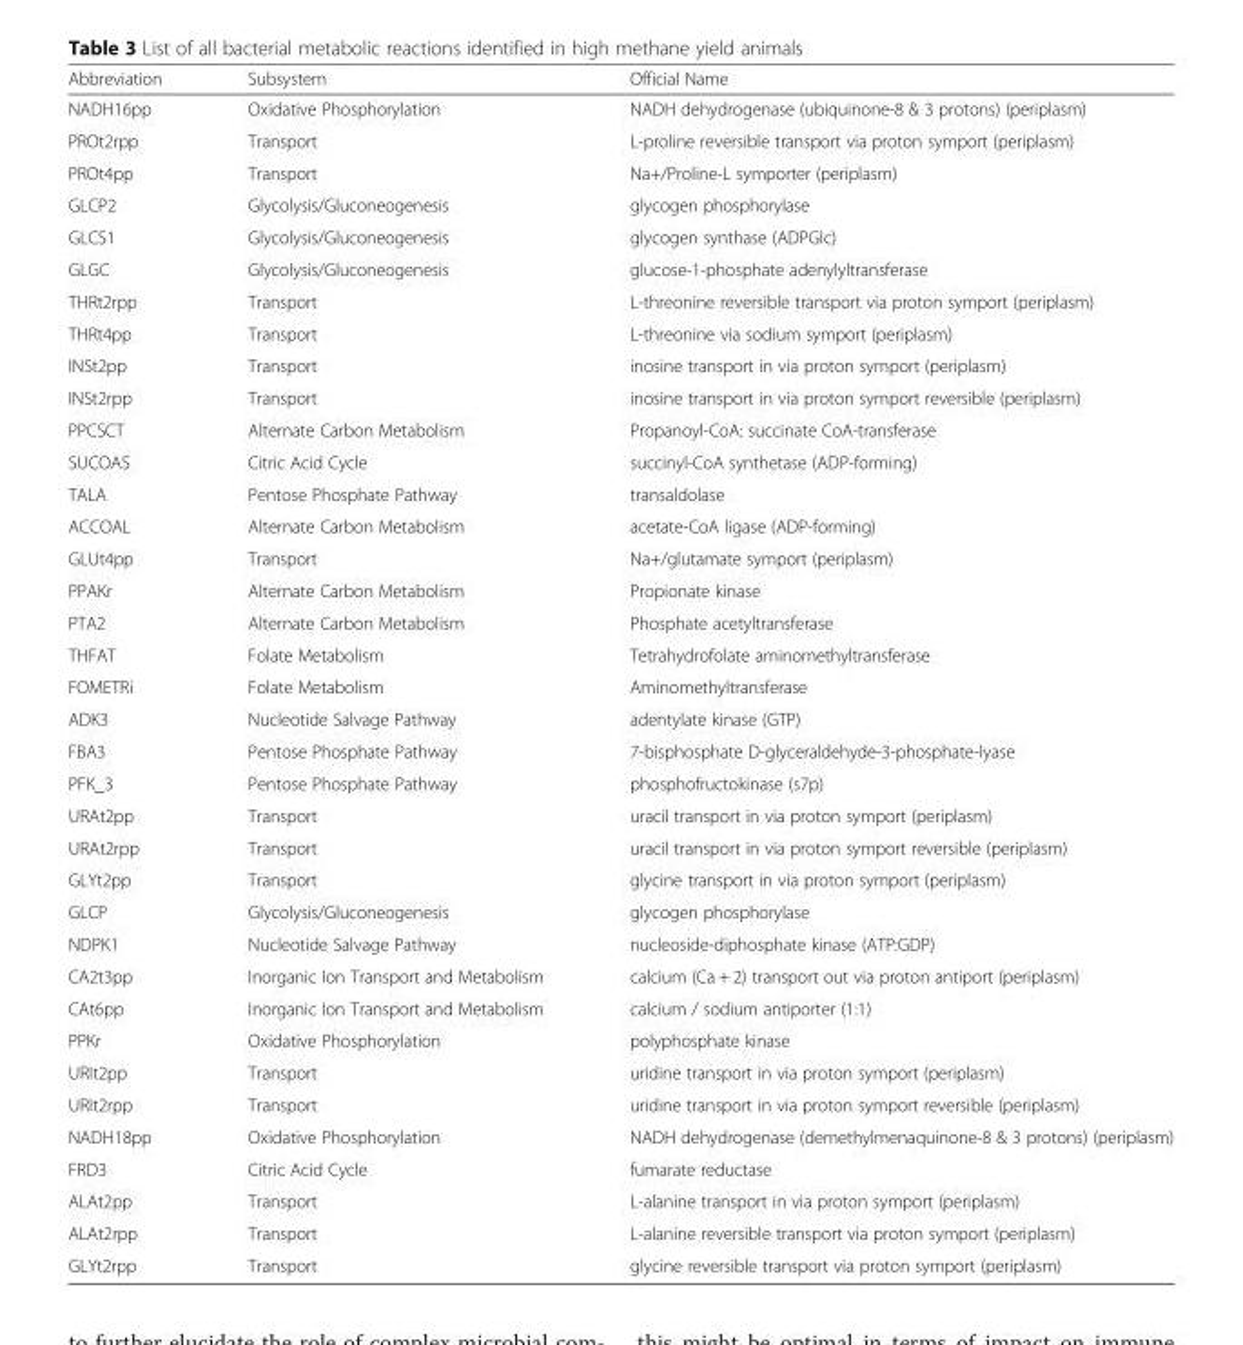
<table><thead><tr><td>Abbreviation</td><td>Subsystem</td><td>Official Name</td></tr></thead><tbody><tr><td>NADH16pp</td><td>Oxidative Phosphorylation</td><td>NADH dehydrogenase (ubiquinone-8 &amp; 3 protons) (periplasm)</td></tr><tr><td>PROt2rpp</td><td>Transport</td><td>L-proline reversible transport via proton symport (periplasm)</td></tr><tr><td>PROt4pp</td><td>Transport</td><td>Na+/Proline-L symporter (periplasm)</td></tr><tr><td>GLCP2</td><td>Glycolysis/Gluconeogenesis</td><td>glycogen phosphorylase</td></tr><tr><td>GLCS1</td><td>Glycolysis/Gluconeogenesis</td><td>glycogen synthase (ADPGlc)</td></tr><tr><td>GLGC</td><td>Glycolysis/Gluconeogenesis</td><td>glucose-1-phosphate adenylyltransferase</td></tr><tr><td>THRt2rpp</td><td>Transport</td><td>L-threonine reversible transport via proton symport (periplasm)</td></tr><tr><td>THRt4pp</td><td>Transport</td><td>L-threonine via sodium symport (periplasm)</td></tr><tr><td>INSt2pp</td><td>Transport</td><td>inosine transport in via proton symport (periplasm)</td></tr><tr><td>INSt2rpp</td><td>Transport</td><td>inosine transport in via proton symport reversible (periplasm)</td></tr><tr><td>PPCSCT</td><td>Alternate Carbon Metabolism</td><td>Propanoyl-CoA: succinate CoA-transferase</td></tr><tr><td>SUCOAS</td><td>Citric Acid Cycle</td><td>succinyl-CoA synthetase (ADP-forming)</td></tr><tr><td>TALA</td><td>Pentose Phosphate Pathway</td><td>transaldolase</td></tr><tr><td>ACCOAL</td><td>Alternate Carbon Metabolism</td><td>acetate-CoA ligase (ADP-forming)</td></tr><tr><td>GLUt4pp</td><td>Transport</td><td>Na+/glutamate symport (periplasm)</td></tr><tr><td>PPAKr</td><td>Alternate Carbon Metabolism</td><td>Propionate kinase</td></tr><tr><td>PTA2</td><td>Alternate Carbon Metabolism</td><td>Phosphate acetyltransferase</td></tr><tr><td>THFAT</td><td>Folate Metabolism</td><td>Tetrahydrofolate aminomethyltransferase</td></tr><tr><td>FOMETRi</td><td>Folate Metabolism</td><td>Aminomethyltransferase</td></tr><tr><td>ADK3</td><td>Nucleotide Salvage Pathway</td><td>adentylate kinase (GTP)</td></tr><tr><td>FBA3</td><td>Pentose Phosphate Pathway</td><td>7-bisphosphate D-glyceraldehyde-3-phosphate-lyase</td></tr><tr><td>PFK_3</td><td>Pentose Phosphate Pathway</td><td>phosphofructokinase (s7p)</td></tr><tr><td>URAt2pp</td><td>Transport</td><td>uracil transport in via proton symport (periplasm)</td></tr><tr><td>URAt2rpp</td><td>Transport</td><td>uracil transport in via proton symport reversible (periplasm)</td></tr><tr><td>GLYt2pp</td><td>Transport</td><td>glycine transport in via proton symport (periplasm)</td></tr><tr><td>GLCP</td><td>Glycolysis/Gluconeogenesis</td><td>glycogen phosphorylase</td></tr><tr><td>NDPK1</td><td>Nucleotide Salvage Pathway</td><td>nucleoside-diphosphate kinase (ATP:GDP)</td></tr><tr><td>CA2t3pp</td><td>Inorganic Ion Transport and Metabolism</td><td>calcium (Ca + 2) transport out via proton antiport (periplasm)</td></tr><tr><td>CAt6pp</td><td>Inorganic Ion Transport and Metabolism</td><td>calcium / sodium antiporter (1:1)</td></tr><tr><td>PPKr</td><td>Oxidative Phosphorylation</td><td>polyphosphate kinase</td></tr><tr><td>URIt2pp</td><td>Transport</td><td>uridine transport in via proton symport (periplasm)</td></tr><tr><td>URIt2rpp</td><td>Transport</td><td>uridine transport in via proton symport reversible (periplasm)</td></tr><tr><td>NADH18pp</td><td>Oxidative Phosphorylation</td><td>NADH dehydrogenase (demethylmenaquinone-8 &amp; 3 protons) (periplasm)</td></tr><tr><td>FRD3</td><td>Citric Acid Cycle</td><td>fumarate reductase</td></tr><tr><td>ALAt2pp</td><td>Transport</td><td>L-alanine transport in via proton symport (periplasm)</td></tr><tr><td>ALAt2rpp</td><td>Transport</td><td>L-alanine reversible transport via proton symport (periplasm)</td></tr><tr><td>GLYt2rpp</td><td>Transport</td><td>glycine reversible transport via proton symport (periplasm)</td></tr></tbody></table>